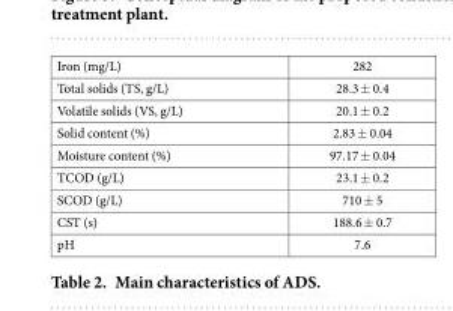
<table><tbody><tr><td>Iron (mg/L)</td><td>282</td></tr><tr><td>Total solids (TS, g/L)</td><td>28.3 ± 0.4</td></tr><tr><td>Volatile solids (VS, g/L)</td><td>20.1 ± 0.2</td></tr><tr><td>Solid content (%)</td><td>2.83 ± 0.04</td></tr><tr><td>Moisture content (%)</td><td>97.17 ± 0.04</td></tr><tr><td>TCOD (g/L)</td><td>23.1 ± 0.2</td></tr><tr><td>SCOD (g/L)</td><td>710 ± 5</td></tr><tr><td>CST (s)</td><td>188.6 ± 0.7</td></tr><tr><td>pH</td><td>7.6</td></tr></tbody></table>